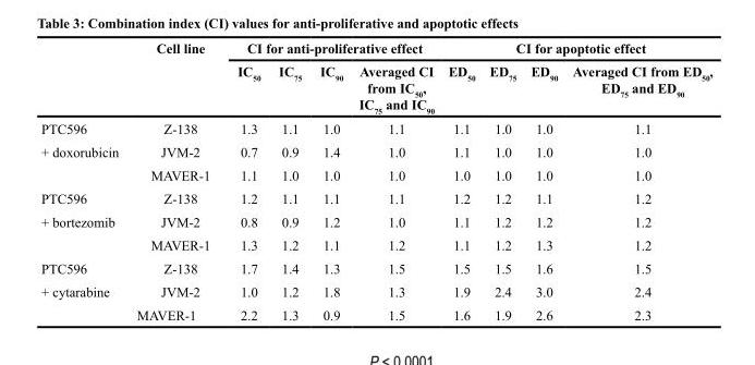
<table><thead><tr><td rowspan="2"></td><td rowspan="2">Cell line</td><td colspan="4">CI for anti-proliferative effect</td><td colspan="4">CI for apoptotic effect</td></tr><tr><td>IC<sub>50</sub></td><td>IC<sub>75</sub></td><td>IC<sub>90</sub></td><td>Averaged CI from IC<sub>50</sub>, IC<sub>75</sub> and IC<sub>90</sub></td><td>ED<sub>50</sub></td><td>ED<sub>75</sub></td><td>ED<sub>90</sub></td><td>Averaged CI from ED<sub>50</sub>, ED<sub>75</sub> and ED<sub>90</sub></td></tr></thead><tbody><tr><td>PTC596</td><td>Z-138</td><td>1.3</td><td>1.1</td><td>1.0</td><td>1.1</td><td>1.1</td><td>1.0</td><td>1.0</td><td>1.1</td></tr><tr><td rowspan="2">+ doxorubicin</td><td>JVM-2</td><td>0.7</td><td>0.9</td><td>1.4</td><td>1.0</td><td>1.1</td><td>1.0</td><td>1.0</td><td>1.0</td></tr><tr><td>MAVER-1</td><td>1.1</td><td>1.0</td><td>1.0</td><td>1.0</td><td>1.0</td><td>1.0</td><td>1.0</td><td>1.0</td></tr><tr><td>PTC596</td><td>Z-138</td><td>1.2</td><td>1.1</td><td>1.1</td><td>1.1</td><td>1.2</td><td>1.2</td><td>1.1</td><td>1.2</td></tr><tr><td rowspan="2">+ bortezomib</td><td>JVM-2</td><td>0.8</td><td>0.9</td><td>1.2</td><td>1.0</td><td>1.1</td><td>1.2</td><td>1.2</td><td>1.2</td></tr><tr><td>MAVER-1</td><td>1.3</td><td>1.2</td><td>1.1</td><td>1.2</td><td>1.1</td><td>1.2</td><td>1.3</td><td>1.2</td></tr><tr><td>PTC596</td><td>Z-138</td><td>1.7</td><td>1.4</td><td>1.3</td><td>1.5</td><td>1.5</td><td>1.5</td><td>1.6</td><td>1.5</td></tr><tr><td rowspan="2">+ cytarabine</td><td>JVM-2</td><td>1.0</td><td>1.2</td><td>1.8</td><td>1.3</td><td>1.9</td><td>2.4</td><td>3.0</td><td>2.4</td></tr><tr><td>MAVER-1</td><td>2.2</td><td>1.3</td><td>0.9</td><td>1.5</td><td>1.6</td><td>1.9</td><td>2.6</td><td>2.3</td></tr></tbody></table>